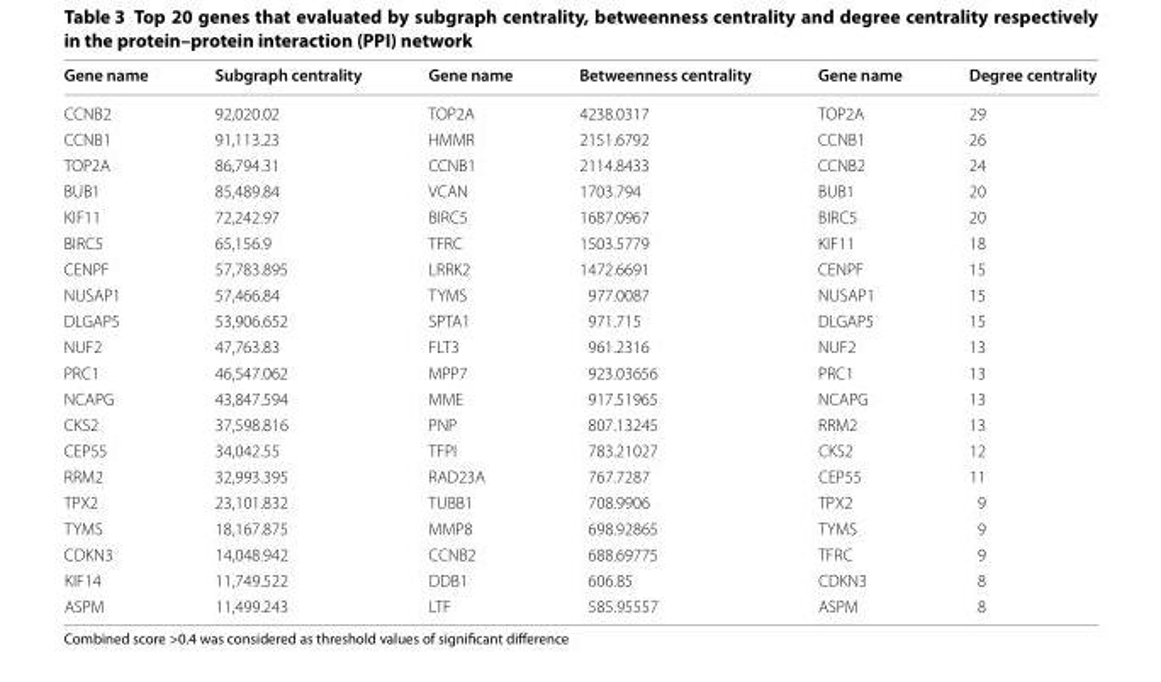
<table><thead><tr><td>Gene name</td><td>Subgraph centrality</td><td>Gene name</td><td>Betweenness centrality</td><td>Gene name</td><td>Degree centrality</td></tr></thead><tbody><tr><td>CCNB2</td><td>92,020.02</td><td>TOP2A</td><td>4238.0317</td><td>TOP2A</td><td>29</td></tr><tr><td>CCNB1</td><td>91,113.23</td><td>HMMR</td><td>2151.6792</td><td>CCNB1</td><td>26</td></tr><tr><td>TOP2A</td><td>86,794.31</td><td>CCNB1</td><td>2114.8433</td><td>CCNB2</td><td>24</td></tr><tr><td>BUB1</td><td>85,489.84</td><td>VCAN</td><td>1703.794</td><td>BUB1</td><td>20</td></tr><tr><td>KIF11</td><td>72,242.97</td><td>BIRC5</td><td>1687.0967</td><td>BIRC5</td><td>20</td></tr><tr><td>BIRC5</td><td>65,156.9</td><td>TFRC</td><td>1503.5779</td><td>KIF11</td><td>18</td></tr><tr><td>CENPF</td><td>57,783.895</td><td>LRRK2</td><td>1472.6691</td><td>CENPF</td><td>15</td></tr><tr><td>NUSAP1</td><td>57,466.84</td><td>TYMS</td><td>977.0087</td><td>NUSAP1</td><td>15</td></tr><tr><td>DLGAP5</td><td>53,906.652</td><td>SPTA1</td><td>971.715</td><td>DLGAP5</td><td>15</td></tr><tr><td>NUF2</td><td>47,763.83</td><td>FLT3</td><td>961.2316</td><td>NUF2</td><td>13</td></tr><tr><td>PRC1</td><td>46,547.062</td><td>MPP7</td><td>923.03656</td><td>PRC1</td><td>13</td></tr><tr><td>NCAPG</td><td>43,847.594</td><td>MME</td><td>917.51965</td><td>NCAPG</td><td>13</td></tr><tr><td>CKS2</td><td>37,598.816</td><td>PNP</td><td>807.13245</td><td>RRM2</td><td>13</td></tr><tr><td>CEP55</td><td>34,042.55</td><td>TFPI</td><td>783.21027</td><td>CKS2</td><td>12</td></tr><tr><td>RRM2</td><td>32,993.395</td><td>RAD23A</td><td>767.7287</td><td>CEP55</td><td>11</td></tr><tr><td>TPX2</td><td>23,101.832</td><td>TUBB1</td><td>708.9906</td><td>TPX2</td><td>9</td></tr><tr><td>TYMS</td><td>18,167.875</td><td>MMP8</td><td>698.92865</td><td>TYMS</td><td>9</td></tr><tr><td>CDKN3</td><td>14,048.942</td><td>CCNB2</td><td>688.69775</td><td>TFRC</td><td>9</td></tr><tr><td>KIF14</td><td>11,749.522</td><td>DDB1</td><td>606.85</td><td>CDKN3</td><td>8</td></tr><tr><td>ASPM</td><td>11,499.243</td><td>LTF</td><td>585.95557</td><td>ASPM</td><td>8</td></tr></tbody></table>